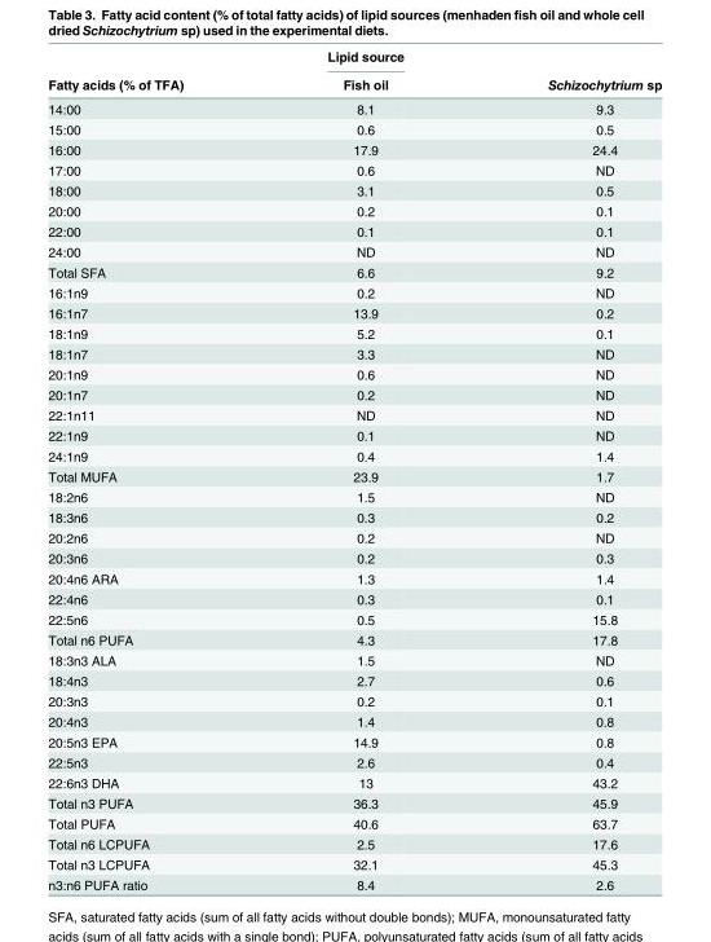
<table><thead><tr><td rowspan="2">Fatty acids (% of TFA)</td><td rowspan="2">Lipid source Fish oil</td><td rowspan="2">Schizochytrium sp</td></tr><tr></tr></thead><tbody><tr><td>14:00</td><td>8.1</td><td>9.3</td></tr><tr><td>15:00</td><td>0.6</td><td>0.5</td></tr><tr><td>16:00</td><td>17.9</td><td>24.4</td></tr><tr><td>17:00</td><td>0.6</td><td>ND</td></tr><tr><td>18:00</td><td>3.1</td><td>0.5</td></tr><tr><td>20:00</td><td>0.2</td><td>0.1</td></tr><tr><td>22:00</td><td>0.1</td><td>0.1</td></tr><tr><td>24:00</td><td>ND</td><td>ND</td></tr><tr><td>Total SFA</td><td>6.6</td><td>9.2</td></tr><tr><td>16:1n9</td><td>0.2</td><td>ND</td></tr><tr><td>16:1n7</td><td>13.9</td><td>0.2</td></tr><tr><td>18:1n9</td><td>5.2</td><td>0.1</td></tr><tr><td>18:1n7</td><td>3.3</td><td>ND</td></tr><tr><td>20:1n9</td><td>0.6</td><td>ND</td></tr><tr><td>20:1n7</td><td>0.2</td><td>ND</td></tr><tr><td>22:1n11</td><td>ND</td><td>ND</td></tr><tr><td>22:1n9</td><td>0.1</td><td>ND</td></tr><tr><td>24:1n9</td><td>0.4</td><td>1.4</td></tr><tr><td>Total MUFA</td><td>23.9</td><td>1.7</td></tr><tr><td>18:2n6</td><td>1.5</td><td>ND</td></tr><tr><td>18:3n6</td><td>0.3</td><td>0.2</td></tr><tr><td>20:2n6</td><td>0.2</td><td>ND</td></tr><tr><td>20:3n6</td><td>0.2</td><td>0.3</td></tr><tr><td>20:4n6 ARA</td><td>1.3</td><td>1.4</td></tr><tr><td>22:4n6</td><td>0.3</td><td>0.1</td></tr><tr><td>22:5n6</td><td>0.5</td><td>15.8</td></tr><tr><td>Total n6 PUFA</td><td>4.3</td><td>17.8</td></tr><tr><td>18:3n3 ALA</td><td>1.5</td><td>ND</td></tr><tr><td>18:4n3</td><td>2.7</td><td>0.6</td></tr><tr><td>20:3n3</td><td>0.2</td><td>0.1</td></tr><tr><td>20:4n3</td><td>1.4</td><td>0.8</td></tr><tr><td>20:5n3 EPA</td><td>14.9</td><td>0.8</td></tr><tr><td>22:5n3</td><td>2.6</td><td>0.4</td></tr><tr><td>22:6n3 DHA</td><td>13</td><td>43.2</td></tr><tr><td>Total n3 PUFA</td><td>36.3</td><td>45.9</td></tr><tr><td>Total PUFA</td><td>40.6</td><td>63.7</td></tr><tr><td>Total n6 LCPUFA</td><td>2.5</td><td>17.6</td></tr><tr><td>Total n3 LCPUFA</td><td>32.1</td><td>45.3</td></tr><tr><td>n3:n6 PUFA ratio</td><td>8.4</td><td>2.6</td></tr></tbody></table>